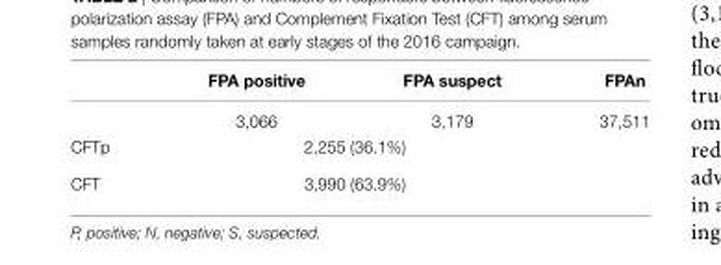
<table><thead><tr><td></td><td>FPA positive</td><td>FPA suspect</td><td>FPAn</td></tr></thead><tbody><tr><td></td><td>3,066</td><td>3,179</td><td>37,511</td></tr><tr><td>CFTp</td><td colspan="2">2,255 (36.1%)</td><td></td></tr><tr><td>CFT</td><td colspan="2">3,990 (63.9%)</td><td></td></tr></tbody></table>